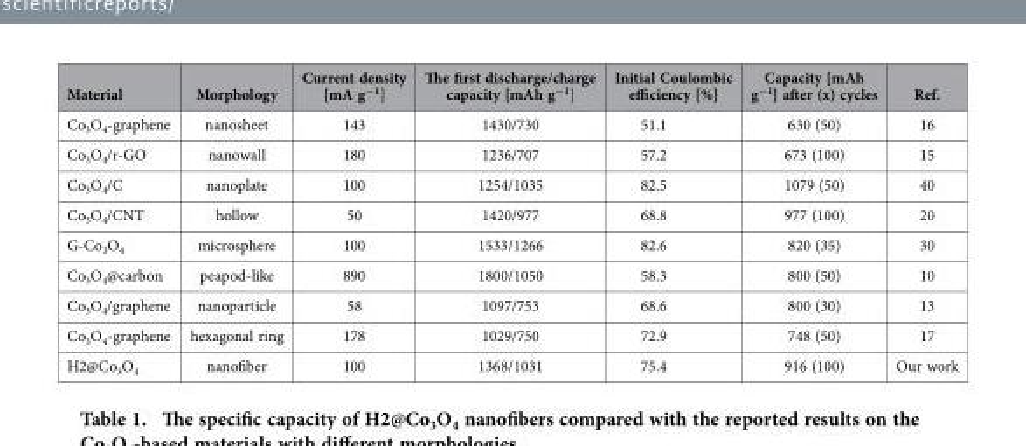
<table><thead><tr><td>Material</td><td>Morphology</td><td>Current density [mA g<sup>−1</sup>]</td><td>The first discharge/charge capacity [mAh g<sup>−1</sup>]</td><td>Initial Coulombic efficiency [%]</td><td>Capacity [mAh g<sup>−1</sup>] after (x) cycles</td><td>Ref.</td></tr></thead><tbody><tr><td>Co<sub>3</sub>O<sub>4</sub>-graphene</td><td>nanosheet</td><td>143</td><td>1430/730</td><td>51.1</td><td>630 (50)</td><td>16</td></tr><tr><td>Co<sub>3</sub>O<sub>4</sub>/r-GO</td><td>nanowall</td><td>180</td><td>1236/707</td><td>57.2</td><td>673 (100)</td><td>15</td></tr><tr><td>Co<sub>3</sub>O<sub>4</sub>/C</td><td>nanoplate</td><td>100</td><td>1254/1035</td><td>82.5</td><td>1079 (50)</td><td>40</td></tr><tr><td>Co<sub>3</sub>O<sub>4</sub>/CNT</td><td>hollow</td><td>50</td><td>1420/977</td><td>68.8</td><td>977 (100)</td><td>20</td></tr><tr><td>G-Co<sub>3</sub>O<sub>4</sub></td><td>microsphere</td><td>100</td><td>1533/1266</td><td>82.6</td><td>820 (35)</td><td>30</td></tr><tr><td>Co<sub>3</sub>O<sub>4</sub>@carbon</td><td>peapod-like</td><td>890</td><td>1800/1050</td><td>58.3</td><td>800 (50)</td><td>10</td></tr><tr><td>Co<sub>3</sub>O<sub>4</sub>/graphene</td><td>nanoparticle</td><td>58</td><td>1097/753</td><td>68.6</td><td>800 (30)</td><td>13</td></tr><tr><td>Co<sub>3</sub>O<sub>4</sub>-graphene</td><td>hexagonal ring</td><td>178</td><td>1029/750</td><td>72.9</td><td>748 (50)</td><td>17</td></tr><tr><td>H2@Co<sub>3</sub>O<sub>4</sub></td><td>nanofiber</td><td>100</td><td>1368/1031</td><td>75.4</td><td>916 (100)</td><td>Our work</td></tr></tbody></table>